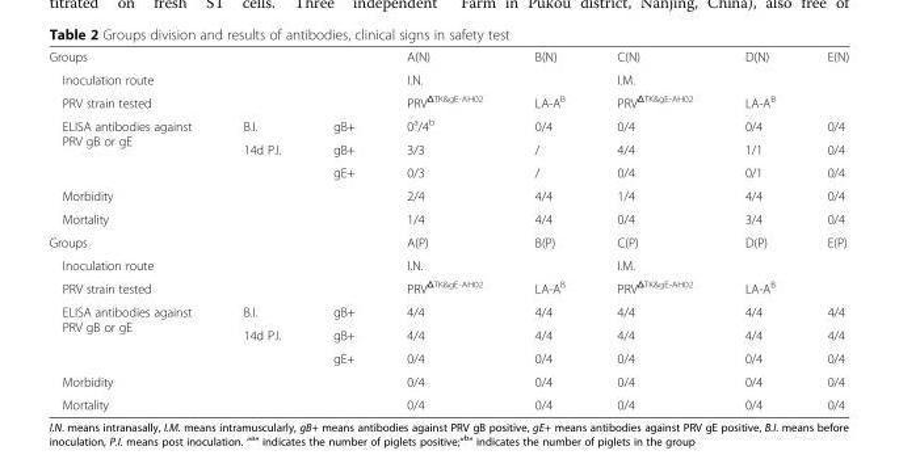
<table><tbody><tr><td colspan="3">Groups</td><td>A(N)</td><td>B(N)</td><td>C(N)</td><td>D(N)</td><td>E(N)</td></tr><tr><td>Inoculation route</td><td></td><td></td><td colspan="2">I.N.</td><td colspan="2">I.M.</td><td></td></tr><tr><td>PRV strain tested</td><td></td><td></td><td>PRV<sup>ΔTK&amp;gE-AH02</sup></td><td>LA-A<sup>B</sup></td><td>PRV<sup>ΔTK&amp;gE-AH02</sup></td><td>LA-A<sup>B</sup></td><td></td></tr><tr><td rowspan="3">ELISA antibodies against PRV gB or gE</td><td>B.I.</td><td>gB+</td><td>0<sup>a</sup>/4<sup>b</sup></td><td>0/4</td><td>0/4</td><td>0/4</td><td>0/4</td></tr><tr><td rowspan="2">14d P.I.</td><td>gB+</td><td>3/3</td><td>/</td><td>4/4</td><td>1/1</td><td>0/4</td></tr><tr><td>gE+</td><td>0/3</td><td>/</td><td>0/4</td><td>0/1</td><td>0/4</td></tr><tr><td>Morbidity</td><td colspan="2"></td><td>2/4</td><td>4/4</td><td>1/4</td><td>4/4</td><td>0/4</td></tr><tr><td>Mortality</td><td colspan="2"></td><td>1/4</td><td>4/4</td><td>0/4</td><td>3/4</td><td>0/4</td></tr><tr><td colspan="3">Groups</td><td>A(P)</td><td>B(P)</td><td>C(P)</td><td>D(P)</td><td>E(P)</td></tr><tr><td>Inoculation route</td><td></td><td></td><td colspan="2">I.N.</td><td colspan="2">I.M.</td><td></td></tr><tr><td>PRV strain tested</td><td></td><td></td><td>PRV<sup>ΔTK&amp;gE-AH02</sup></td><td>LA-A<sup>B</sup></td><td>PRV<sup>ΔTK&amp;gE-AH02</sup></td><td>LA-A<sup>B</sup></td><td></td></tr><tr><td rowspan="3">ELISA antibodies against PRV gB or gE</td><td>B.I.</td><td>gB+</td><td>4/4</td><td>4/4</td><td>4/4</td><td>4/4</td><td>4/4</td></tr><tr><td rowspan="2">14d P.I.</td><td>gB+</td><td>4/4</td><td>4/4</td><td>4/4</td><td>4/4</td><td>4/4</td></tr><tr><td>gE+</td><td>0/4</td><td>0/4</td><td>0/4</td><td>0/4</td><td>0/4</td></tr><tr><td>Morbidity</td><td colspan="2"></td><td>0/4</td><td>0/4</td><td>0/4</td><td>0/4</td><td>0/4</td></tr><tr><td>Mortality</td><td colspan="2"></td><td>0/4</td><td>0/4</td><td>0/4</td><td>0/4</td><td>0/4</td></tr></tbody></table>